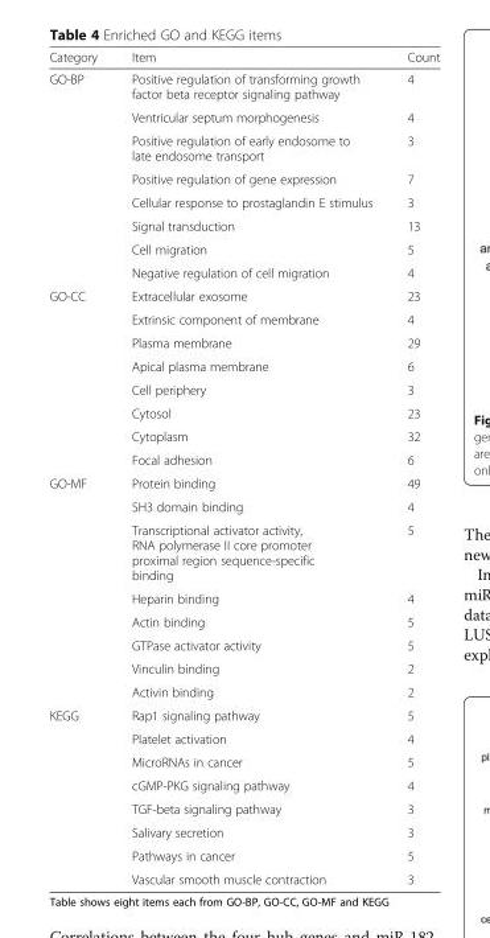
<table><thead><tr><td>Category</td><td>Item</td><td>Count</td></tr></thead><tbody><tr><td rowspan="8">GO-BP</td><td>Positive regulation of transforming growth factor beta receptor signaling pathway</td><td>4</td></tr><tr><td>Ventricular septum morphogenesis</td><td>4</td></tr><tr><td>Positive regulation of early endosome to late endosome transport</td><td>3</td></tr><tr><td>Positive regulation of gene expression</td><td>7</td></tr><tr><td>Cellular response to prostaglandin E stimulus</td><td>3</td></tr><tr><td>Signal transduction</td><td>13</td></tr><tr><td>Cell migration</td><td>5</td></tr><tr><td>Negative regulation of cell migration</td><td>4</td></tr><tr><td rowspan="8">GO-CC</td><td>Extracellular exosome</td><td>23</td></tr><tr><td>Extrinsic component of membrane</td><td>4</td></tr><tr><td>Plasma membrane</td><td>29</td></tr><tr><td>Apical plasma membrane</td><td>6</td></tr><tr><td>Cell periphery</td><td>3</td></tr><tr><td>Cytosol</td><td>23</td></tr><tr><td>Cytoplasm</td><td>32</td></tr><tr><td>Focal adhesion</td><td>6</td></tr><tr><td rowspan="8">GO-MF</td><td>Protein binding</td><td>49</td></tr><tr><td>SH3 domain binding</td><td>4</td></tr><tr><td>Transcriptional activator activity, RNA polymerase II core promoter proximal region sequence-specific binding</td><td>5</td></tr><tr><td>Heparin binding</td><td>4</td></tr><tr><td>Actin binding</td><td>5</td></tr><tr><td>GTPase activator activity</td><td>5</td></tr><tr><td>Vinculin binding</td><td>2</td></tr><tr><td>Activin binding</td><td>2</td></tr><tr><td rowspan="8">KEGG</td><td>Rap1 signaling pathway</td><td>5</td></tr><tr><td>Platelet activation</td><td>4</td></tr><tr><td>MicroRNAs in cancer</td><td>5</td></tr><tr><td>cGMP-PKG signaling pathway</td><td>4</td></tr><tr><td>TGF-beta signaling pathway</td><td>3</td></tr><tr><td>Salivary secretion</td><td>3</td></tr><tr><td>Pathways in cancer</td><td>5</td></tr><tr><td>Vascular smooth muscle contraction</td><td>3</td></tr></tbody></table>